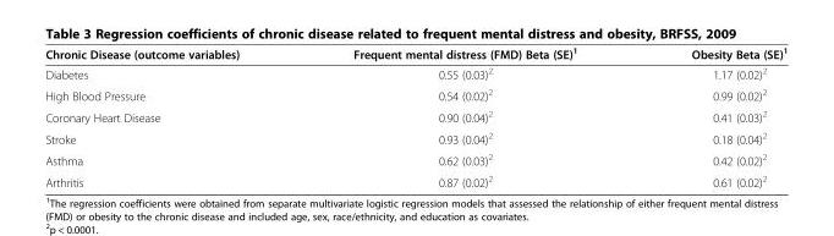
<table><thead><tr><td>Chronic Disease (outcome variables)</td><td>Frequent mental distress (FMD) Beta (SE)<sup>1</sup></td><td>Obesity Beta (SE)<sup>1</sup></td></tr></thead><tbody><tr><td>Diabetes</td><td>0.55 (0.03)<sup>2</sup></td><td>1.17 (0.02)<sup>2</sup></td></tr><tr><td>High Blood Pressure</td><td>0.54 (0.02)<sup>2</sup></td><td>0.99 (0.02)<sup>2</sup></td></tr><tr><td>Coronary Heart Disease</td><td>0.90 (0.04)<sup>2</sup></td><td>0.41 (0.03)<sup>2</sup></td></tr><tr><td>Stroke</td><td>0.93 (0.04)<sup>2</sup></td><td>0.18 (0.04)<sup>2</sup></td></tr><tr><td>Asthma</td><td>0.62 (0.03)<sup>2</sup></td><td>0.42 (0.02)<sup>2</sup></td></tr><tr><td>Arthritis</td><td>0.87 (0.02)<sup>2</sup></td><td>0.61 (0.02)<sup>2</sup></td></tr></tbody></table>